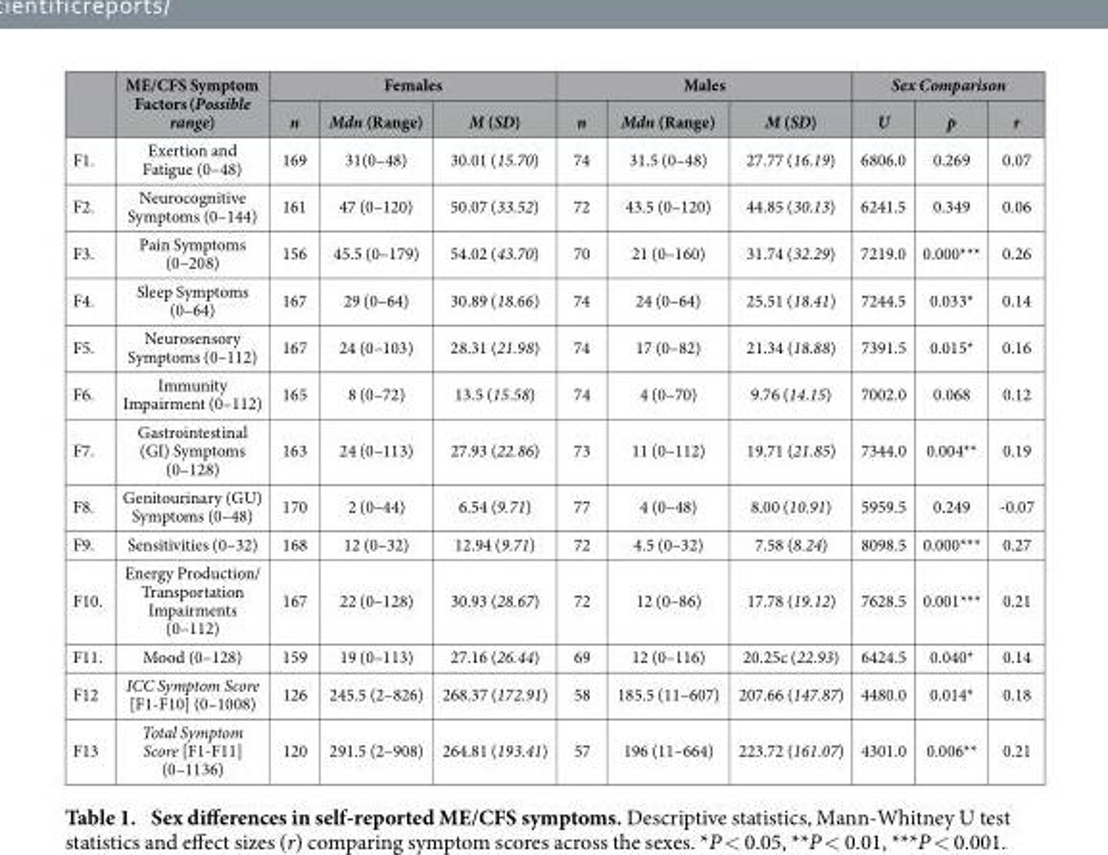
<table><thead><tr><td rowspan="2"></td><td rowspan="2">ME/CFS Symptom Factors (Possible range)</td><td colspan="3">Females</td><td colspan="3">Males</td><td colspan="3">Sex Comparison</td></tr><tr><td>n</td><td>Mdn (Range)</td><td>M (SD)</td><td>n</td><td>Mdn (Range)</td><td>M (SD)</td><td>U</td><td>p</td><td>r</td></tr></thead><tbody><tr><td>F1.</td><td>Exertion and Fatigue (0–48)</td><td>169</td><td>31(0–48)</td><td>30.01 (15.70)</td><td>74</td><td>31.5 (0–48)</td><td>27.77 (16.19)</td><td>6806.0</td><td>0.269</td><td>0.07</td></tr><tr><td>F2.</td><td>Neurocognitive Symptoms (0–144)</td><td>161</td><td>47 (0–120)</td><td>50.07 (33.52)</td><td>72</td><td>43.5 (0–120)</td><td>44.85 (30.13)</td><td>6241.5</td><td>0.349</td><td>0.06</td></tr><tr><td>F3.</td><td>Pain Symptoms (0–208)</td><td>156</td><td>45.5 (0–179)</td><td>54.02 (43.70)</td><td>70</td><td>21 (0–160)</td><td>31.74 (32.29)</td><td>7219.0</td><td>0.000***</td><td>0.26</td></tr><tr><td>F4.</td><td>Sleep Symptoms (0–64)</td><td>167</td><td>29 (0–64)</td><td>30.89 (18.66)</td><td>74</td><td>24 (0–64)</td><td>25.51 (18.41)</td><td>7244.5</td><td>0.033*</td><td>0.14</td></tr><tr><td>F5.</td><td>Neurosensory Symptoms (0–112)</td><td>167</td><td>24 (0–103)</td><td>28.31 (21.98)</td><td>74</td><td>17 (0–82)</td><td>21.34 (18.88)</td><td>7391.5</td><td>0.015*</td><td>0.16</td></tr><tr><td>F6.</td><td>Immunity Impairment (0–112)</td><td>165</td><td>8 (0–72)</td><td>13.5 (15.58)</td><td>74</td><td>4 (0–70)</td><td>9.76 (14.15)</td><td>7002.0</td><td>0.068</td><td>0.12</td></tr><tr><td>F7.</td><td>Gastrointestinal (GI) Symptoms (0–128)</td><td>163</td><td>24 (0–113)</td><td>27.93 (22.86)</td><td>73</td><td>11 (0–112)</td><td>19.71 (21.85)</td><td>7344.0</td><td>0.004**</td><td>0.19</td></tr><tr><td>F8.</td><td>Genitourinary (GU) Symptoms (0–48)</td><td>170</td><td>2 (0–44)</td><td>6.54 (9.71)</td><td>77</td><td>4 (0–48)</td><td>8.00 (10.91)</td><td>5959.5</td><td>0.249</td><td>-0.07</td></tr><tr><td>F9.</td><td>Sensitivities (0–32)</td><td>168</td><td>12 (0–32)</td><td>12.94 (9.71)</td><td>72</td><td>4.5 (0–32)</td><td>7.58 (8.24)</td><td>8098.5</td><td>0.000***</td><td>0.27</td></tr><tr><td>F10.</td><td>Energy Production/ Transportation Impairments (0–112)</td><td>167</td><td>22 (0–128)</td><td>30.93 (28.67)</td><td>72</td><td>12 (0–86)</td><td>17.78 (19.12)</td><td>7628.5</td><td>0.001***</td><td>0.21</td></tr><tr><td>F11.</td><td>Mood (0–128)</td><td>159</td><td>19 (0–113)</td><td>27.16 (26.44)</td><td>69</td><td>12 (0–116)</td><td>20.25c (22.93)</td><td>6424.5</td><td>0.040*</td><td>0.14</td></tr><tr><td>F12</td><td>ICC Symptom Score [F1-F10] (0–1008)</td><td>126</td><td>245.5 (2–826)</td><td>268.37 (172.91)</td><td>58</td><td>185.5 (11–607)</td><td>207.66 (147.87)</td><td>4480.0</td><td>0.014*</td><td>0.18</td></tr><tr><td>F13</td><td>Total Symptom Score [F1-F11] (0–1136)</td><td>120</td><td>291.5 (2–908)</td><td>264.81 (193.41)</td><td>57</td><td>196 (11–664)</td><td>223.72 (161.07)</td><td>4301.0</td><td>0.006**</td><td>0.21</td></tr></tbody></table>